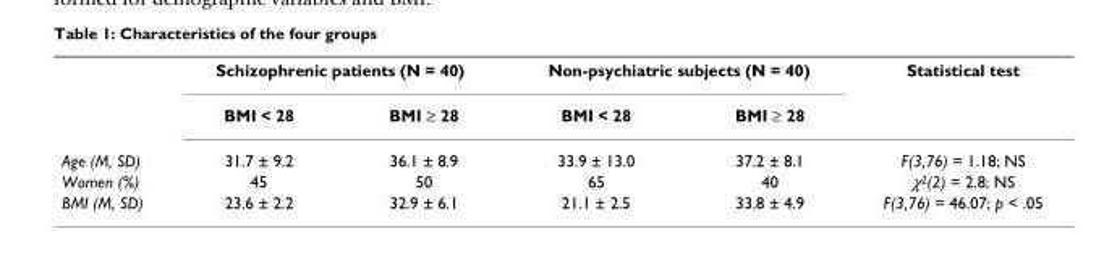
<table><thead><tr><td rowspan="2"></td><td colspan="2">Schizophrenic patients (N = 40)</td><td colspan="2">Non-psychiatric subjects (N = 40)</td><td rowspan="2">Statistical test</td></tr><tr><td>BMI &lt; 28</td><td>BMI ≥ 28</td><td>BMI &lt; 28</td><td>BMI ≥ 28</td></tr></thead><tbody><tr><td>Age (M, SD)</td><td>31.7 ± 9.2</td><td>36.1 ± 8.9</td><td>33.9 ± 13.0</td><td>37.2 ± 8.1</td><td>F(3,76) = 1.18; NS</td></tr><tr><td>Women (%)</td><td>45</td><td>50</td><td>65</td><td>40</td><td>χ<sup>2</sup>(2) = 2.8; NS</td></tr><tr><td>BMI (M, SD)</td><td>23.6 ± 2.2</td><td>32.9 ± 6.1</td><td>21.1 ± 2.5</td><td>33.8 ± 4.9</td><td>F(3,76) = 46.07; p &lt; .05</td></tr></tbody></table>